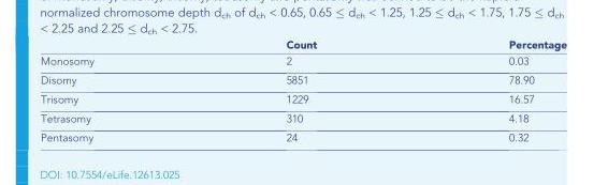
<table><thead><tr><td></td><td>Count</td><td>Percentage</td></tr></thead><tbody><tr><td>Monosomy</td><td>2</td><td>0.03</td></tr><tr><td>Disomy</td><td>5851</td><td>78.90</td></tr><tr><td>Trisomy</td><td>1229</td><td>16.57</td></tr><tr><td>Tetrasomy</td><td>310</td><td>4.18</td></tr><tr><td>Pentasomy</td><td>24</td><td>0.32</td></tr></tbody></table>